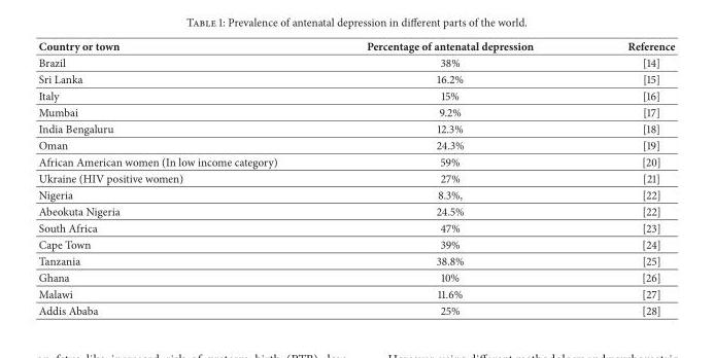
<table><thead><tr><td>Country or town</td><td>Percentage of antenatal depression</td><td>Reference</td></tr></thead><tbody><tr><td>Brazil</td><td>38%</td><td>[14]</td></tr><tr><td>Sri Lanka</td><td>16.2%</td><td>[15]</td></tr><tr><td>Italy</td><td>15%</td><td>[16]</td></tr><tr><td>Mumbai</td><td>9.2%</td><td>[17]</td></tr><tr><td>India Bengaluru</td><td>12.3%</td><td>[18]</td></tr><tr><td>Oman</td><td>24.3%</td><td>[19]</td></tr><tr><td>African American women (In low income category)</td><td>59%</td><td>[20]</td></tr><tr><td>Ukraine (HIV positive women)</td><td>27%</td><td>[21]</td></tr><tr><td>Nigeria</td><td>8.3%,</td><td>[22]</td></tr><tr><td>Abeokuta Nigeria</td><td>24.5%</td><td>[22]</td></tr><tr><td>South Africa</td><td>47%</td><td>[23]</td></tr><tr><td>Cape Town</td><td>39%</td><td>[24]</td></tr><tr><td>Tanzania</td><td>38.8%</td><td>[25]</td></tr><tr><td>Ghana</td><td>10%</td><td>[26]</td></tr><tr><td>Malawi</td><td>11.6%</td><td>[27]</td></tr><tr><td>Addis Ababa</td><td>25%</td><td>[28]</td></tr></tbody></table>